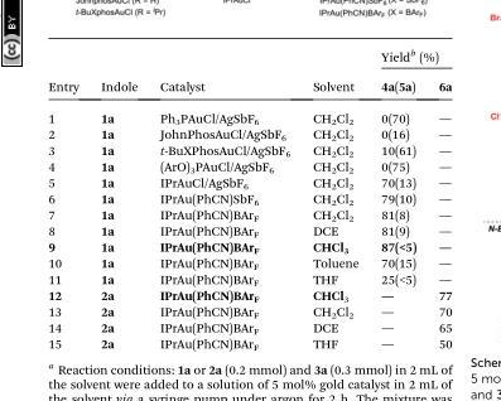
<table><thead><tr><td rowspan="2">Entry</td><td rowspan="2">Indole</td><td rowspan="2">Catalyst</td><td rowspan="2">Solvent</td><td colspan="2">Yield<sup>b</sup> (%)</td></tr><tr><td>4a(5a)</td><td>6a</td></tr></thead><tbody><tr><td>1</td><td>1a</td><td>Ph<sub>3</sub>PAuCl/AgSbF<sub>6</sub></td><td>CH<sub>2</sub>Cl<sub>2</sub></td><td>0(70)</td><td>—</td></tr><tr><td>2</td><td>1a</td><td>JohnPhosAuCl/AgSbF<sub>6</sub></td><td>CH<sub>2</sub>Cl<sub>2</sub></td><td>0(16)</td><td>—</td></tr><tr><td>3</td><td>1a</td><td>t-BuXPhosAuCl/AgSbF<sub>6</sub></td><td>CH<sub>2</sub>Cl<sub>2</sub></td><td>10(61)</td><td>—</td></tr><tr><td>4</td><td>1a</td><td>(ArO)<sub>3</sub>PAuCl/AgSbF<sub>6</sub></td><td>CH<sub>2</sub>Cl<sub>2</sub></td><td>0(75)</td><td>—</td></tr><tr><td>5</td><td>1a</td><td>IPrAuCl/AgSbF<sub>6</sub></td><td>CH<sub>2</sub>Cl<sub>2</sub></td><td>70(13)</td><td>—</td></tr><tr><td>6</td><td>1a</td><td>IPrAu(PhCN)SbF<sub>6</sub></td><td>CH<sub>2</sub>Cl<sub>2</sub></td><td>79(10)</td><td>—</td></tr><tr><td>7</td><td>1a</td><td>IPrAu(PhCN)BAr<sub>F</sub></td><td>CH<sub>2</sub>Cl<sub>2</sub></td><td>81(8)</td><td>—</td></tr><tr><td>8</td><td>1a</td><td>IPrAu(PhCN)BAr<sub>F</sub></td><td>DCE</td><td>81(9)</td><td>—</td></tr><tr><td>9</td><td>1a</td><td>IPrAu(PhCN)BAr<sub>F</sub></td><td>CHCl<sub>3</sub></td><td>87(&lt;5)</td><td>—</td></tr><tr><td>10</td><td>1a</td><td>IPrAu(PhCN)BAr<sub>F</sub></td><td>Toluene</td><td>70(15)</td><td>—</td></tr><tr><td>11</td><td>1a</td><td>IPrAu(PhCN)BAr<sub>F</sub></td><td>THF</td><td>25(&lt;5)</td><td>—</td></tr><tr><td>12</td><td>2a</td><td>IPrAu(PhCN)BAr<sub>F</sub></td><td>CHCl<sub>3</sub></td><td>—</td><td>77</td></tr><tr><td>13</td><td>2a</td><td>IPrAu(PhCN)BAr<sub>F</sub></td><td>CH<sub>2</sub>Cl<sub>2</sub></td><td>—</td><td>70</td></tr><tr><td>14</td><td>2a</td><td>IPrAu(PhCN)BAr<sub>F</sub></td><td>DCE</td><td>—</td><td>65</td></tr><tr><td>15</td><td>2a</td><td>IPrAu(PhCN)BAr<sub>F</sub></td><td>THF</td><td>—</td><td>50</td></tr></tbody></table>